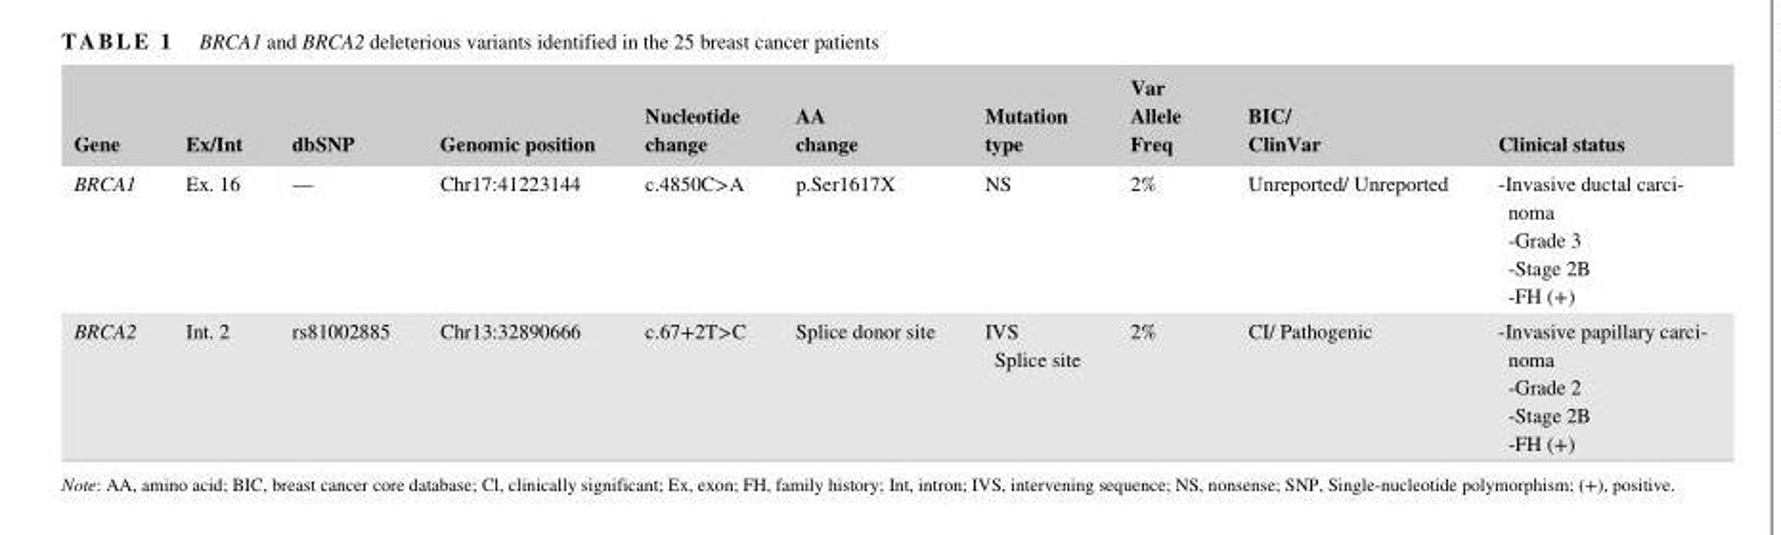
<table><thead><tr><td>Gene</td><td>Ex/Int</td><td>dbSNP</td><td>Genomic position</td><td>Nucleotide change</td><td>AA change</td><td>Mutation type</td><td>Var Allele Freq</td><td>BIC/ ClinVar</td><td>Clinical status</td></tr></thead><tbody><tr><td>BRCA1</td><td>Ex. 16</td><td>—</td><td>Chr17:41223144</td><td>c.4850C&gt;A</td><td>p.Ser1617X</td><td>NS</td><td>2%</td><td>Unreported/ Unreported</td><td>‐Invasive ductal carci- noma ‐Grade 3 ‐Stage 2B ‐FH (+)</td></tr><tr><td>BRCA2</td><td>Int. 2</td><td>rs81002885</td><td>Chr13:32890666</td><td>c.67+2T&gt;C</td><td>Splice donor site</td><td>IVS Splice site</td><td>2%</td><td>CI/ Pathogenic</td><td>‐Invasive papillary carci- noma ‐Grade 2 ‐Stage 2B ‐FH (+)</td></tr></tbody></table>